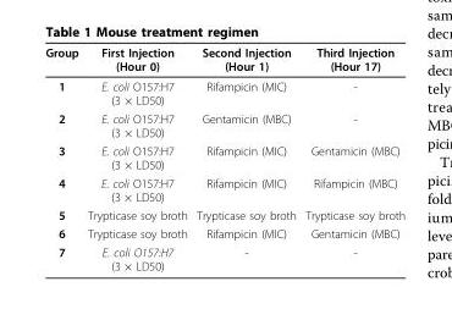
<table><thead><tr><td>Group</td><td>First Injection (Hour 0)</td><td>Second Injection (Hour 1)</td><td>Third Injection (Hour 17)</td></tr></thead><tbody><tr><td>1</td><td>E. coli O157:H7 (3 × LD50)</td><td>Rifampicin (MIC)</td><td>-</td></tr><tr><td>2</td><td>E. coli O157:H7 (3 × LD50)</td><td>Gentamicin (MBC)</td><td>-</td></tr><tr><td>3</td><td>E. coli O157:H7 (3 × LD50)</td><td>Rifampicin (MIC)</td><td>Gentamicin (MBC)</td></tr><tr><td>4</td><td>E. coli O157:H7 (3 × LD50)</td><td>Rifampicin (MIC)</td><td>Rifampicin (MBC)</td></tr><tr><td>5</td><td>Trypticase soy broth</td><td>Trypticase soy broth</td><td>Trypticase soy broth</td></tr><tr><td>6</td><td>Trypticase soy broth</td><td>Rifampicin (MIC)</td><td>Gentamicin (MBC)</td></tr><tr><td>7</td><td>E. coli O157:H7 (3 × LD50)</td><td>-</td><td>-</td></tr></tbody></table>